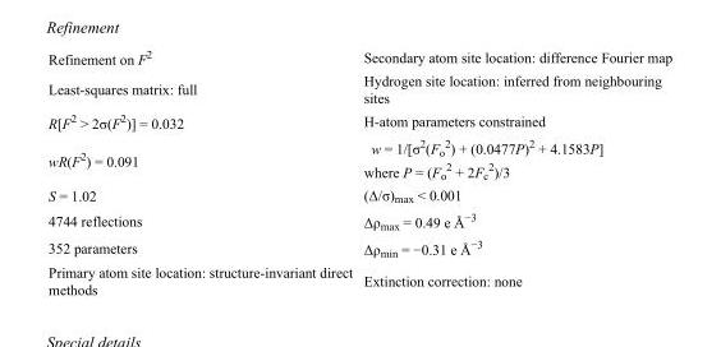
<table><tbody><tr><td>Refinement on F<sup>2</sup></td><td>Secondary atom site location: difference Fourier map</td></tr><tr><td>Least-squares matrix: full</td><td>Hydrogen site location: inferred from neighbouring sites</td></tr><tr><td>R[F<sup>2</sup> &gt; 2σ(F<sup>2</sup>)] = 0.032</td><td>H-atom parameters constrained</td></tr><tr><td>wR(F<sup>2</sup>) = 0.091</td><td>w = 1/[σ<sup>2</sup>(F<sub>o</sub> <sup>2</sup>) + (0.0477P)<sup>2</sup> + 4.1583P] where P = (F<sub>o</sub> <sup>2</sup> + 2F<sub>c</sub> <sup>2</sup>)/3</td></tr><tr><td>S = 1.02</td><td>(Δ/σ)<sub>max</sub> &lt; 0.001</td></tr><tr><td>4744 reflections</td><td>Δρ<sub>max</sub> = 0.49 e Å<sup>−3</sup></td></tr><tr><td>352 parameters</td><td>Δρ<sub>min</sub> = −0.31 e Å<sup>−3</sup></td></tr><tr><td>Primary atom site location: structure-invariant direct methods</td><td>Extinction correction: none</td></tr></tbody></table>